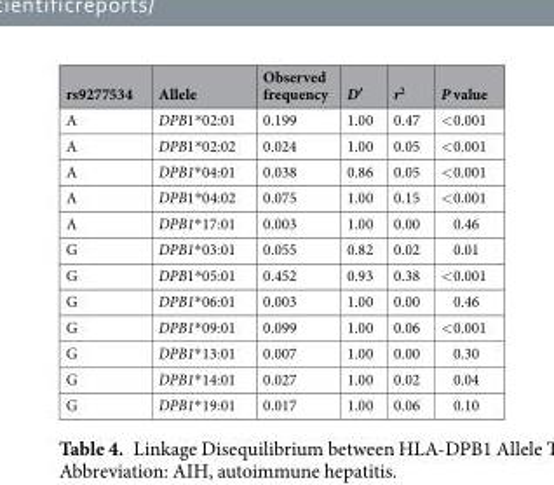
<table><thead><tr><td>rs9277534</td><td>Allele</td><td>Observed frequency</td><td>D′</td><td>r<sup>2</sup></td><td>P value</td></tr></thead><tbody><tr><td>A</td><td>DPB1*02:01</td><td>0.199</td><td>1.00</td><td>0.47</td><td>&lt;0.001</td></tr><tr><td>A</td><td>DPB1*02:02</td><td>0.024</td><td>1.00</td><td>0.05</td><td>&lt;0.001</td></tr><tr><td>A</td><td>DPB1*04:01</td><td>0.038</td><td>0.86</td><td>0.05</td><td>&lt;0.001</td></tr><tr><td>A</td><td>DPB1*04:02</td><td>0.075</td><td>1.00</td><td>0.15</td><td>&lt;0.001</td></tr><tr><td>A</td><td>DPB1*17:01</td><td>0.003</td><td>1.00</td><td>0.00</td><td>0.46</td></tr><tr><td>G</td><td>DPB1*03:01</td><td>0.055</td><td>0.82</td><td>0.02</td><td>0.01</td></tr><tr><td>G</td><td>DPB1*05:01</td><td>0.452</td><td>0.93</td><td>0.38</td><td>&lt;0.001</td></tr><tr><td>G</td><td>DPB1*06:01</td><td>0.003</td><td>1.00</td><td>0.00</td><td>0.46</td></tr><tr><td>G</td><td>DPB1*09:01</td><td>0.099</td><td>1.00</td><td>0.06</td><td>&lt;0.001</td></tr><tr><td>G</td><td>DPB1*13:01</td><td>0.007</td><td>1.00</td><td>0.00</td><td>0.30</td></tr><tr><td>G</td><td>DPB1*14:01</td><td>0.027</td><td>1.00</td><td>0.02</td><td>0.04</td></tr><tr><td>G</td><td>DPB1*19:01</td><td>0.017</td><td>1.00</td><td>0.06</td><td>0.10</td></tr></tbody></table>